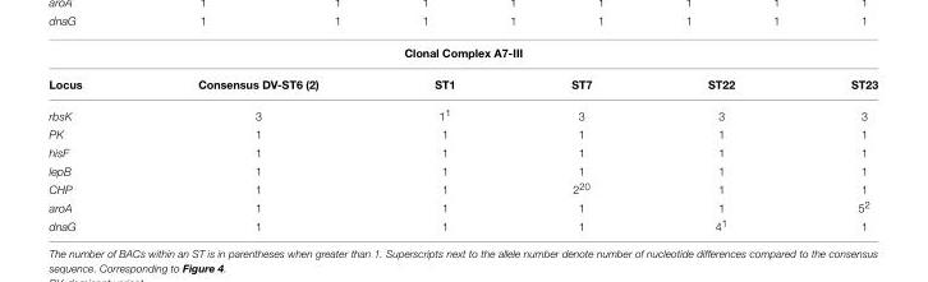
<table><thead><tr><td colspan="6">Clonal Complex A7-III</td></tr><tr><td>Locus</td><td>Consensus DV-ST6 (2)</td><td>ST1</td><td>ST7</td><td>ST22</td><td>ST23</td></tr></thead><tbody><tr><td>rbsK</td><td>3</td><td>1<sup>1</sup></td><td>3</td><td>3</td><td>3</td></tr><tr><td>PK</td><td>1</td><td>1</td><td>1</td><td>1</td><td>1</td></tr><tr><td>hisF</td><td>1</td><td>1</td><td>1</td><td>1</td><td>1</td></tr><tr><td>lepB</td><td>1</td><td>1</td><td>1</td><td>1</td><td>1</td></tr><tr><td>CHP</td><td>1</td><td>1</td><td>2<sup>20</sup></td><td>1</td><td>1</td></tr><tr><td>aroA</td><td>1</td><td>1</td><td>1</td><td>1</td><td>5<sup>2</sup></td></tr><tr><td>dnaG</td><td>1</td><td>1</td><td>1</td><td>4<sup>1</sup></td><td>1</td></tr></tbody></table>